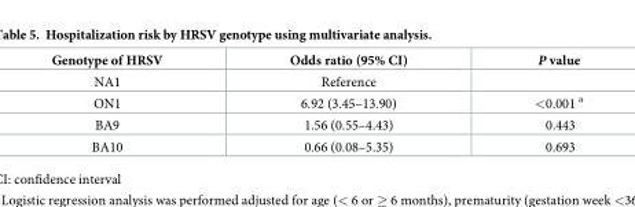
<table><thead><tr><td>Genotype of HRSV</td><td>Odds ratio (95% CI)</td><td>P value</td></tr></thead><tbody><tr><td>NA1</td><td>Reference</td><td></td></tr><tr><td>ON1</td><td>6.92 (3.45–13.90)</td><td>&lt;0.001 <sup>a</sup></td></tr><tr><td>BA9</td><td>1.56 (0.55–4.43)</td><td>0.443</td></tr><tr><td>BA10</td><td>0.66 (0.08–5.35)</td><td>0.693</td></tr></tbody></table>